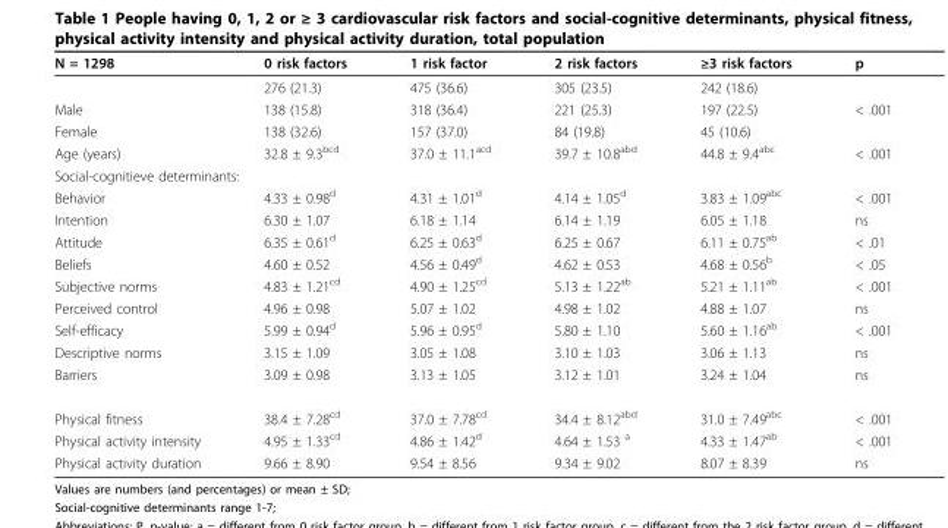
<table><thead><tr><td>N = 1298</td><td>0 risk factors</td><td>1 risk factor</td><td>2 risk factors</td><td>≥3 risk factors</td><td>p</td></tr></thead><tbody><tr><td></td><td>276 (21.3)</td><td>475 (36.6)</td><td>305 (23.5)</td><td>242 (18.6)</td><td></td></tr><tr><td>Male</td><td>138 (15.8)</td><td>318 (36.4)</td><td>221 (25.3)</td><td>197 (22.5)</td><td>&lt; .001</td></tr><tr><td>Female</td><td>138 (32.6)</td><td>157 (37.0)</td><td>84 (19.8)</td><td>45 (10.6)</td><td></td></tr><tr><td>Age (years)</td><td>32.8 ± 9.3<sup>bcd</sup></td><td>37.0 ± 11.1<sup>acd</sup></td><td>39.7 ± 10.8<sup>abd</sup></td><td>44.8 ± 9.4<sup>abc</sup></td><td>&lt; .001</td></tr><tr><td colspan="6">Social-cognitieve determinants:</td></tr><tr><td>Behavior</td><td>4.33 ± 0.98<sup>d</sup></td><td>4.31 ± 1.01<sup>d</sup></td><td>4.14 ± 1.05<sup>d</sup></td><td>3.83 ± 1.09<sup>abc</sup></td><td>&lt; .001</td></tr><tr><td>Intention</td><td>6.30 ± 1.07</td><td>6.18 ± 1.14</td><td>6.14 ± 1.19</td><td>6.05 ± 1.18</td><td>ns</td></tr><tr><td>Attitude</td><td>6.35 ± 0.61<sup>d</sup></td><td>6.25 ± 0.63<sup>d</sup></td><td>6.25 ± 0.67</td><td>6.11 ± 0.75<sup>ab</sup></td><td>&lt; .01</td></tr><tr><td>Beliefs</td><td>4.60 ± 0.52</td><td>4.56 ± 0.49<sup>d</sup></td><td>4.62 ± 0.53</td><td>4.68 ± 0.56<sup>b</sup></td><td>&lt; .05</td></tr><tr><td>Subjective norms</td><td>4.83 ± 1.21<sup>cd</sup></td><td>4.90 ± 1.25<sup>cd</sup></td><td>5.13 ± 1.22<sup>ab</sup></td><td>5.21 ± 1.11<sup>ab</sup></td><td>&lt; .001</td></tr><tr><td>Perceived control</td><td>4.96 ± 0.98</td><td>5.07 ± 1.02</td><td>4.98 ± 1.02</td><td>4.88 ± 1.07</td><td>ns</td></tr><tr><td>Self-efficacy</td><td>5.99 ± 0.94<sup>d</sup></td><td>5.96 ± 0.95<sup>d</sup></td><td>5.80 ± 1.10</td><td>5.60 ± 1.16<sup>ab</sup></td><td>&lt; .001</td></tr><tr><td>Descriptive norms</td><td>3.15 ± 1.09</td><td>3.05 ± 1.08</td><td>3.10 ± 1.03</td><td>3.06 ± 1.13</td><td>ns</td></tr><tr><td>Barriers</td><td>3.09 ± 0.98</td><td>3.13 ± 1.05</td><td>3.12 ± 1.01</td><td>3.24 ± 1.04</td><td>ns</td></tr><tr><td>Physical fitness</td><td>38.4 ± 7.28<sup>cd</sup></td><td>37.0 ± 7.78<sup>cd</sup></td><td>34.4 ± 8.12<sup>abd</sup></td><td>31.0 ± 7.49<sup>abc</sup></td><td>&lt; .001</td></tr><tr><td>Physical activity intensity</td><td>4.95 ± 1.33<sup>cd</sup></td><td>4.86 ± 1.42<sup>d</sup></td><td>4.64 ± 1.53 <sup>a</sup></td><td>4.33 ± 1.47<sup>ab</sup></td><td>&lt; .001</td></tr><tr><td>Physical activity duration</td><td>9.66 ± 8.90</td><td>9.54 ± 8.56</td><td>9.34 ± 9.02</td><td>8.07 ± 8.39</td><td>ns</td></tr></tbody></table>